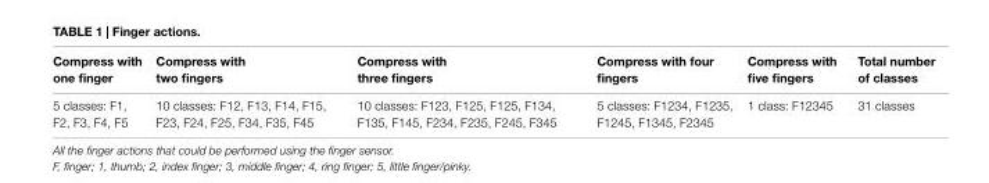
<table><thead><tr><td>compress with one finger</td><td>compress with two fingers</td><td>compress with three fingers</td><td>compress with four fingers</td><td>compress with five fingers</td><td>Total number of classes</td></tr></thead><tbody><tr><td>5 classes: F1, F2, F3, F4, F5</td><td>10 classes: F12, F13, F14, F15, F23, F24, F25, F34, F35, F45</td><td>10 classes: F123, F125, F125, F134, F135, F145, F234, F235, F245, F345</td><td>5 classes: F1234, F1235, F1245, F1345, F2345</td><td>1 class: F12345</td><td>31 classes</td></tr></tbody></table>